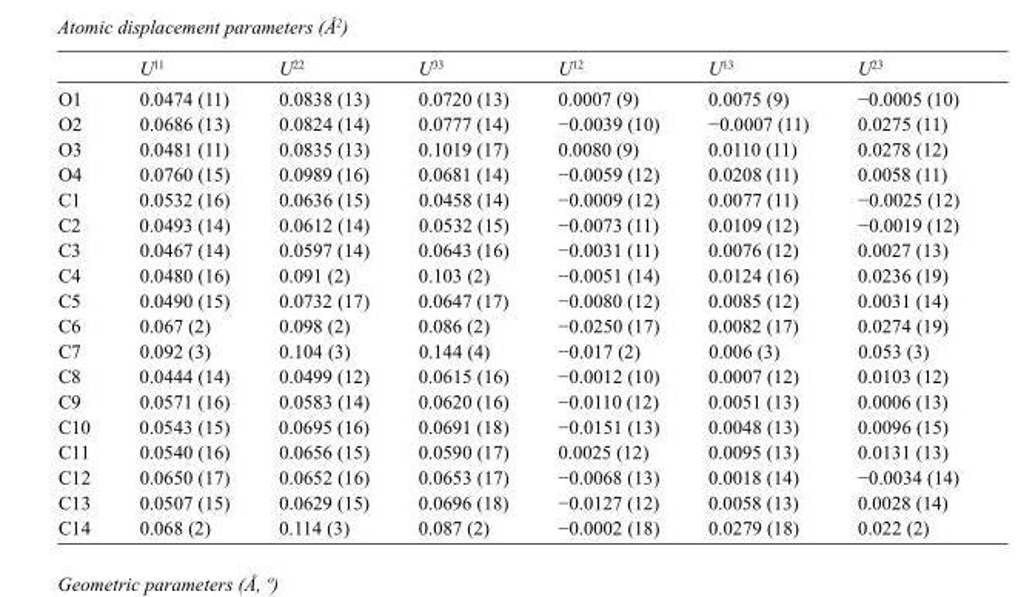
<table><thead><tr><td></td><td>U<sup>11</sup></td><td>U<sup>22</sup></td><td>U<sup>33</sup></td><td>U<sup>12</sup></td><td>U<sup>13</sup></td><td>U<sup>23</sup></td></tr></thead><tbody><tr><td>O1</td><td>0.0474 (11)</td><td>0.0838 (13)</td><td>0.0720 (13)</td><td>0.0007 (9)</td><td>0.0075 (9)</td><td>−0.0005 (10)</td></tr><tr><td>O2</td><td>0.0686 (13)</td><td>0.0824 (14)</td><td>0.0777 (14)</td><td>−0.0039 (10)</td><td>−0.0007 (11)</td><td>0.0275 (11)</td></tr><tr><td>O3</td><td>0.0481 (11)</td><td>0.0835 (13)</td><td>0.1019 (17)</td><td>0.0080 (9)</td><td>0.0110 (11)</td><td>0.0278 (12)</td></tr><tr><td>O4</td><td>0.0760 (15)</td><td>0.0989 (16)</td><td>0.0681 (14)</td><td>−0.0059 (12)</td><td>0.0208 (11)</td><td>0.0058 (11)</td></tr><tr><td>C1</td><td>0.0532 (16)</td><td>0.0636 (15)</td><td>0.0458 (14)</td><td>−0.0009 (12)</td><td>0.0077 (11)</td><td>−0.0025 (12)</td></tr><tr><td>C2</td><td>0.0493 (14)</td><td>0.0612 (14)</td><td>0.0532 (15)</td><td>−0.0073 (11)</td><td>0.0109 (12)</td><td>−0.0019 (12)</td></tr><tr><td>C3</td><td>0.0467 (14)</td><td>0.0597 (14)</td><td>0.0643 (16)</td><td>−0.0031 (11)</td><td>0.0076 (12)</td><td>0.0027 (13)</td></tr><tr><td>C4</td><td>0.0480 (16)</td><td>0.091 (2)</td><td>0.103 (2)</td><td>−0.0051 (14)</td><td>0.0124 (16)</td><td>0.0236 (19)</td></tr><tr><td>C5</td><td>0.0490 (15)</td><td>0.0732 (17)</td><td>0.0647 (17)</td><td>−0.0080 (12)</td><td>0.0085 (12)</td><td>0.0031 (14)</td></tr><tr><td>C6</td><td>0.067 (2)</td><td>0.098 (2)</td><td>0.086 (2)</td><td>−0.0250 (17)</td><td>0.0082 (17)</td><td>0.0274 (19)</td></tr><tr><td>C7</td><td>0.092 (3)</td><td>0.104 (3)</td><td>0.144 (4)</td><td>−0.017 (2)</td><td>0.006 (3)</td><td>0.053 (3)</td></tr><tr><td>C8</td><td>0.0444 (14)</td><td>0.0499 (12)</td><td>0.0615 (16)</td><td>−0.0012 (10)</td><td>0.0007 (12)</td><td>0.0103 (12)</td></tr><tr><td>C9</td><td>0.0571 (16)</td><td>0.0583 (14)</td><td>0.0620 (16)</td><td>−0.0110 (12)</td><td>0.0051 (13)</td><td>0.0006 (13)</td></tr><tr><td>C10</td><td>0.0543 (15)</td><td>0.0695 (16)</td><td>0.0691 (18)</td><td>−0.0151 (13)</td><td>0.0048 (13)</td><td>0.0096 (15)</td></tr><tr><td>C11</td><td>0.0540 (16)</td><td>0.0656 (15)</td><td>0.0590 (17)</td><td>0.0025 (12)</td><td>0.0095 (13)</td><td>0.0131 (13)</td></tr><tr><td>C12</td><td>0.0650 (17)</td><td>0.0652 (16)</td><td>0.0653 (17)</td><td>−0.0068 (13)</td><td>0.0018 (14)</td><td>−0.0034 (14)</td></tr><tr><td>C13</td><td>0.0507 (15)</td><td>0.0629 (15)</td><td>0.0696 (18)</td><td>−0.0127 (12)</td><td>0.0058 (13)</td><td>0.0028 (14)</td></tr><tr><td>C14</td><td>0.068 (2)</td><td>0.114 (3)</td><td>0.087 (2)</td><td>−0.0002 (18)</td><td>0.0279 (18)</td><td>0.022 (2)</td></tr></tbody></table>